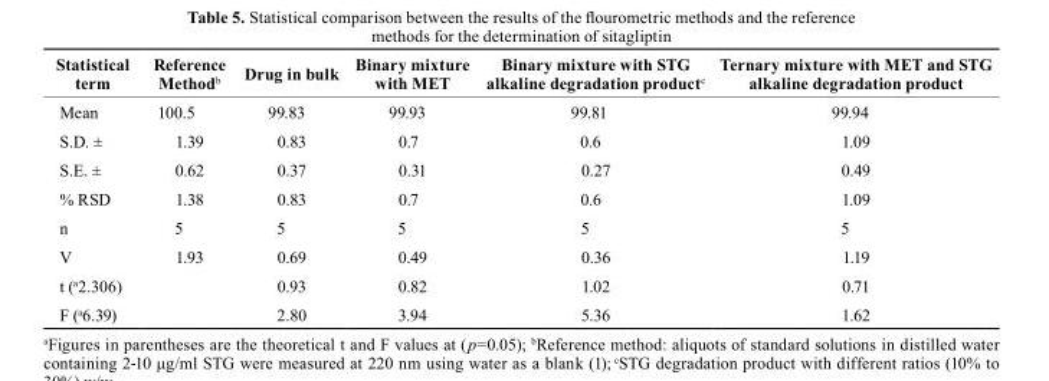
<table><thead><tr><td>statistical term</td><td>Reference Method<sup>b</sup></td><td>Drug in bulk</td><td>Binary mixture with MET</td><td>Binary mixture with STG alkaline degradation product<sup>c</sup></td><td>Ternary mixture with MET and STG alkaline degradation product</td></tr></thead><tbody><tr><td>Mean</td><td>100.5</td><td>99.83</td><td>99.93</td><td>99.81</td><td>99.94</td></tr><tr><td>S.D. ±</td><td>1.39</td><td>0.83</td><td>0.7</td><td>0.6</td><td>1.09</td></tr><tr><td>S.E. ±</td><td>0.62</td><td>0.37</td><td>0.31</td><td>0.27</td><td>0.49</td></tr><tr><td>% RSD</td><td>1.38</td><td>0.83</td><td>0.7</td><td>0.6</td><td>1.09</td></tr><tr><td>n</td><td>5</td><td>5</td><td>5</td><td>5</td><td>5</td></tr><tr><td>V</td><td>1.93</td><td>0.69</td><td>0.49</td><td>0.36</td><td>1.19</td></tr><tr><td>t (a2.306)</td><td></td><td>0.93</td><td>0.82</td><td>1.02</td><td>0.71</td></tr><tr><td>F (a6.39)</td><td></td><td>2.80</td><td>3.94</td><td>5.36</td><td>1.62</td></tr></tbody></table>